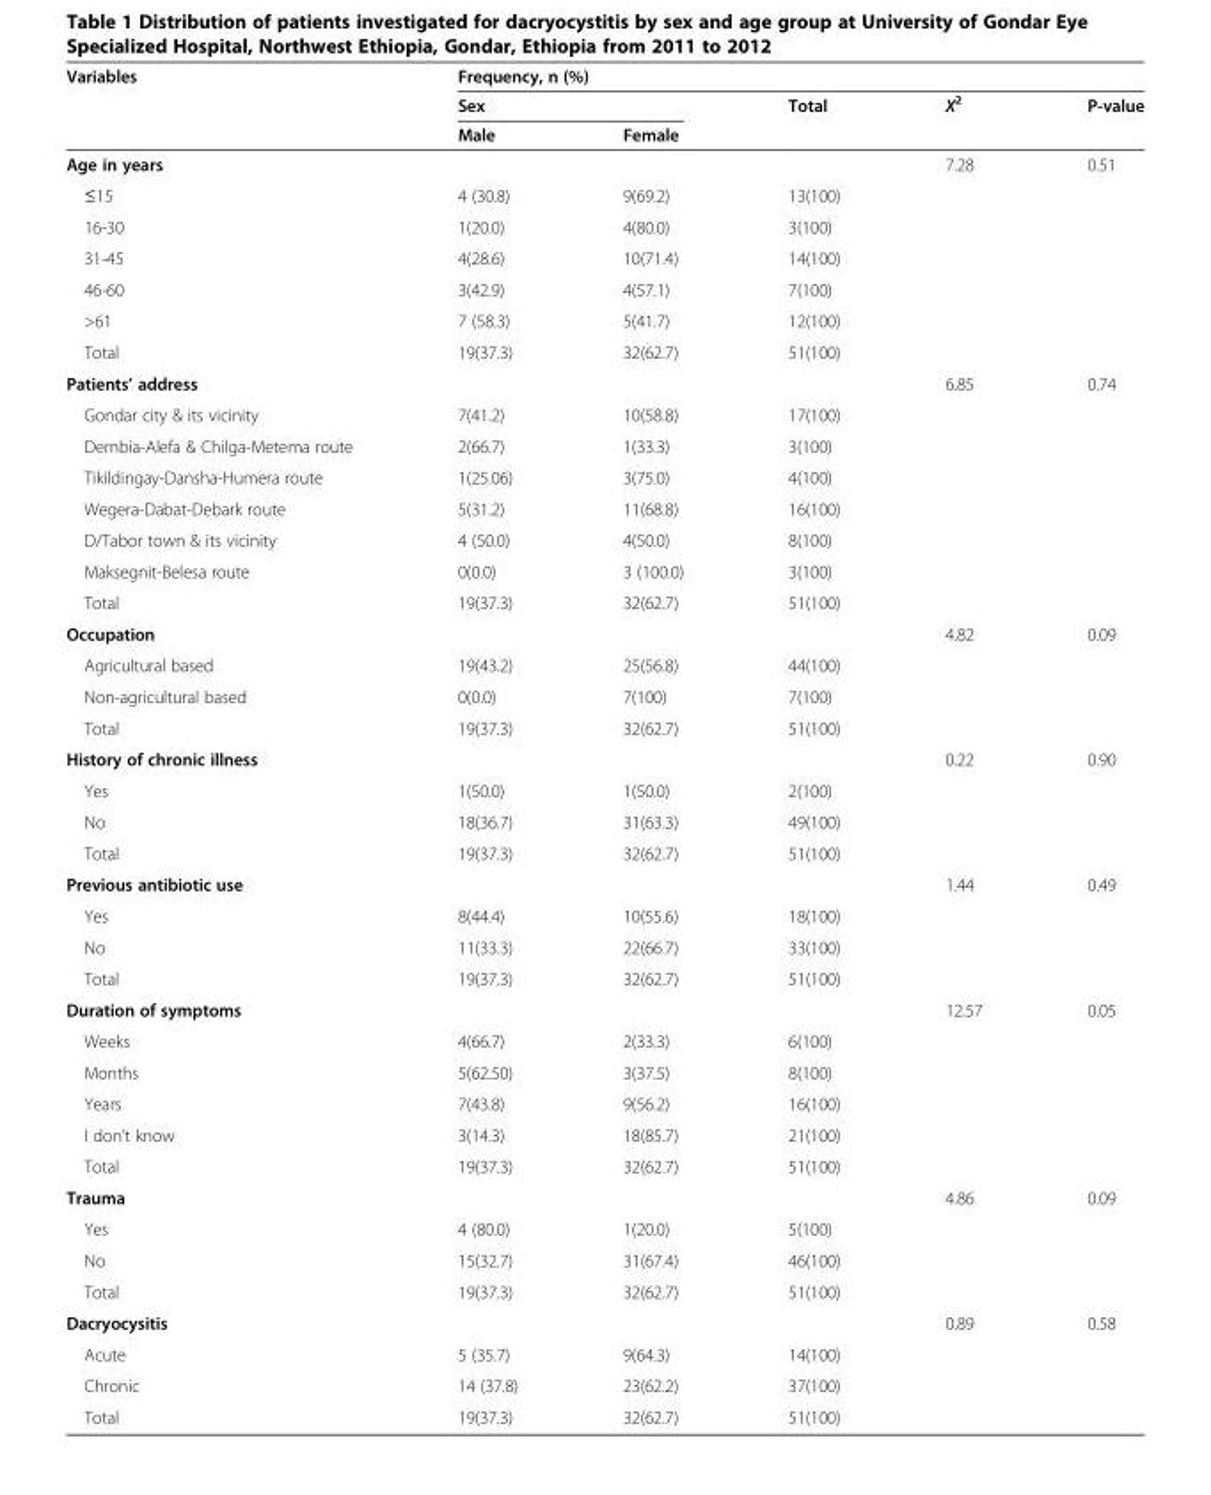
<table><thead><tr><td rowspan="3">Variables</td><td colspan="5">Frequency, n (%)</td></tr><tr><td colspan="2">Sex</td><td rowspan="2">Total</td><td rowspan="2">X<sup>2</sup></td><td rowspan="2">P-value</td></tr><tr><td>Male</td><td>Female</td></tr></thead><tbody><tr><td>Age in years</td><td></td><td></td><td></td><td>7.28</td><td>0.51</td></tr><tr><td>≤15</td><td>4 (30.8)</td><td>9(69.2)</td><td>13(100)</td><td></td><td></td></tr><tr><td>16-30</td><td>1(20.0)</td><td>4(80.0)</td><td>3(100)</td><td></td><td></td></tr><tr><td>31-45</td><td>4(28.6)</td><td>10(71.4)</td><td>14(100)</td><td></td><td></td></tr><tr><td>46-60</td><td>3(42.9)</td><td>4(57.1)</td><td>7(100)</td><td></td><td></td></tr><tr><td>&gt;61</td><td>7 (58.3)</td><td>5(41.7)</td><td>12(100)</td><td></td><td></td></tr><tr><td>Total</td><td>19(37.3)</td><td>32(62.7)</td><td>51(100)</td><td></td><td></td></tr><tr><td>Patients’ address</td><td></td><td></td><td></td><td>6.85</td><td>0.74</td></tr><tr><td>Gondar city &amp; its vicinity</td><td>7(41.2)</td><td>10(58.8)</td><td>17(100)</td><td></td><td></td></tr><tr><td>Dembia-Alefa &amp; Chilga-Metema route</td><td>2(66.7)</td><td>1(33.3)</td><td>3(100)</td><td></td><td></td></tr><tr><td>Tikildingay-Dansha-Humera route</td><td>1(25.06)</td><td>3(75.0)</td><td>4(100)</td><td></td><td></td></tr><tr><td>Wegera-Dabat-Debark route</td><td>5(31.2)</td><td>11(68.8)</td><td>16(100)</td><td></td><td></td></tr><tr><td>D/Tabor town &amp; its vicinity</td><td>4 (50.0)</td><td>4(50.0)</td><td>8(100)</td><td></td><td></td></tr><tr><td>Maksegnit-Belesa route</td><td>0(0.0)</td><td>3 (100.0)</td><td>3(100)</td><td></td><td></td></tr><tr><td>Total</td><td>19(37.3)</td><td>32(62.7)</td><td>51(100)</td><td></td><td></td></tr><tr><td>Occupation</td><td></td><td></td><td></td><td>4.82</td><td>0.09</td></tr><tr><td>Agricultural based</td><td>19(43.2)</td><td>25(56.8)</td><td>44(100)</td><td></td><td></td></tr><tr><td>Non-agricultural based</td><td>0(0.0)</td><td>7(100)</td><td>7(100)</td><td></td><td></td></tr><tr><td>Total</td><td>19(37.3)</td><td>32(62.7)</td><td>51(100)</td><td></td><td></td></tr><tr><td>History of chronic illness</td><td></td><td></td><td></td><td>0.22</td><td>0.90</td></tr><tr><td>Yes</td><td>1(50.0)</td><td>1(50.0)</td><td>2(100)</td><td></td><td></td></tr><tr><td>No</td><td>18(36.7)</td><td>31(63.3)</td><td>49(100)</td><td></td><td></td></tr><tr><td>Total</td><td>19(37.3)</td><td>32(62.7)</td><td>51(100)</td><td></td><td></td></tr><tr><td>Previous antibiotic use</td><td></td><td></td><td></td><td>1.44</td><td>0.49</td></tr><tr><td>Yes</td><td>8(44.4)</td><td>10(55.6)</td><td>18(100)</td><td></td><td></td></tr><tr><td>No</td><td>11(33.3)</td><td>22(66.7)</td><td>33(100)</td><td></td><td></td></tr><tr><td>Total</td><td>19(37.3)</td><td>32(62.7)</td><td>51(100)</td><td></td><td></td></tr><tr><td>Duration of symptoms</td><td></td><td></td><td></td><td>12.57</td><td>0.05</td></tr><tr><td>Weeks</td><td>4(66.7)</td><td>2(33.3)</td><td>6(100)</td><td></td><td></td></tr><tr><td>Months</td><td>5(62.50)</td><td>3(37.5)</td><td>8(100)</td><td></td><td></td></tr><tr><td>Years</td><td>7(43.8)</td><td>9(56.2)</td><td>16(100)</td><td></td><td></td></tr><tr><td>I don’t know</td><td>3(14.3)</td><td>18(85.7)</td><td>21(100)</td><td></td><td></td></tr><tr><td>Total</td><td>19(37.3)</td><td>32(62.7)</td><td>51(100)</td><td></td><td></td></tr><tr><td>Trauma</td><td></td><td></td><td></td><td>4.86</td><td>0.09</td></tr><tr><td>Yes</td><td>4 (80.0)</td><td>1(20.0)</td><td>5(100)</td><td></td><td></td></tr><tr><td>No</td><td>15(32.7)</td><td>31(67.4)</td><td>46(100)</td><td></td><td></td></tr><tr><td>Total</td><td>19(37.3)</td><td>32(62.7)</td><td>51(100)</td><td></td><td></td></tr><tr><td>Dacryocysitis</td><td></td><td></td><td></td><td>0.89</td><td>0.58</td></tr><tr><td>Acute</td><td>5 (35.7)</td><td>9(64.3)</td><td>14(100)</td><td></td><td></td></tr><tr><td>Chronic</td><td>14 (37.8)</td><td>23(62.2)</td><td>37(100)</td><td></td><td></td></tr><tr><td>Total</td><td>19(37.3)</td><td>32(62.7)</td><td>51(100)</td><td></td><td></td></tr></tbody></table>